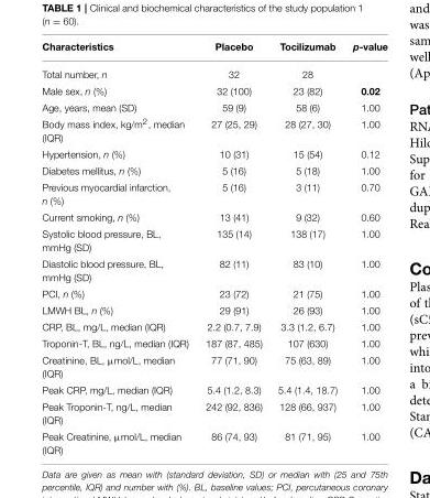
<table><thead><tr><td>Characteristics</td><td>Placebo</td><td>Tocilizumab</td><td>p-value</td></tr></thead><tbody><tr><td>Total number, n</td><td>32</td><td>28</td><td></td></tr><tr><td>Male sex, n (%)</td><td>32 (100)</td><td>23 (82)</td><td>0.02</td></tr><tr><td>Age, years, mean (SD)</td><td>59 (9)</td><td>58 (6)</td><td>1.00</td></tr><tr><td>Body mass index, kg/m<sup>2</sup>, median (IQR)</td><td>27 (25, 29)</td><td>28 (27, 30)</td><td>1.00</td></tr><tr><td>Hypertension, n (%)</td><td>10 (31)</td><td>15 (54)</td><td>0.12</td></tr><tr><td>Diabetes mellitus, n (%)</td><td>5 (16)</td><td>5 (18)</td><td>1.00</td></tr><tr><td>Previous myocardial infarction, n (%)</td><td>5 (16)</td><td>3 (11)</td><td>0.70</td></tr><tr><td>Current smoking, n (%)</td><td>13 (41)</td><td>9 (32)</td><td>0.60</td></tr><tr><td>Systolic blood pressure, BL, mmHg (SD)</td><td>135 (14)</td><td>138 (17)</td><td>1.00</td></tr><tr><td>Diastolic blood pressure, BL, mmHg (SD)</td><td>82 (11)</td><td>83 (10)</td><td>1.00</td></tr><tr><td>PCI, n (%)</td><td>23 (72)</td><td>21 (75)</td><td>1.00</td></tr><tr><td>LMWH BL, n (%)</td><td>29 (91)</td><td>26 (93)</td><td>1.00</td></tr><tr><td>CRP, BL, mg/L, median (IQR)</td><td>2.2 (0.7, 7.9)</td><td>3.3 (1.2, 6.7)</td><td>1.00</td></tr><tr><td>Troponin-T, BL, ng/L, median (IQR)</td><td>187 (87, 485)</td><td>107 (630)</td><td>1.00</td></tr><tr><td>Creatinine, BL, µmol/L, median (IQR)</td><td>77 (71, 90)</td><td>75 (63, 89)</td><td>1.00</td></tr><tr><td>Peak CRP, mg/L, median (IQR)</td><td>5.4 (1.2, 8.3)</td><td>5.4 (1.4, 18.7)</td><td>1.00</td></tr><tr><td>Peak Troponin-T, ng/L, median (IQR)</td><td>242 (92, 836)</td><td>128 (66, 937)</td><td>1.00</td></tr><tr><td>Peak Creatinine, µmol/L, median (IQR)</td><td>86 (74, 93)</td><td>81 (71, 95)</td><td>1.00</td></tr></tbody></table>